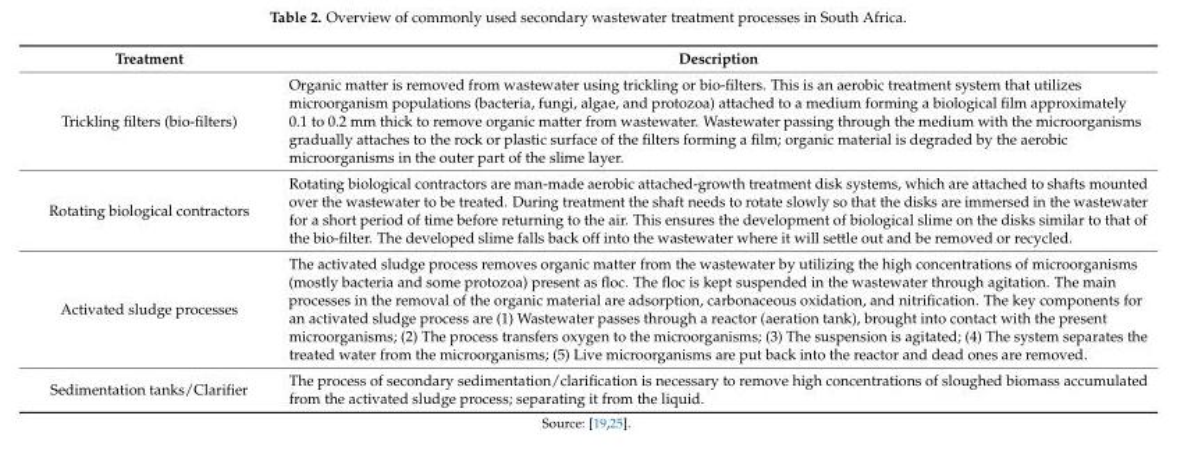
<table><thead><tr><td>Treatment</td><td>Description</td></tr></thead><tbody><tr><td>Trickling filters (bio-filters)</td><td>Organic matter is removed from wastewater using trickling or bio-filters. This is an aerobic treatment system that utilizes microorganism populations (bacteria, fungi, algae, and protozoa) attached to a medium forming a biological film approximately 0.1 to 0.2 mm thick to remove organic matter from wastewater. Wastewater passing through the medium with the microorganisms gradually attaches to the rock or plastic surface of the filters forming a film; organic material is degraded by the aerobic microorganisms in the outer part of the slime layer.</td></tr><tr><td>Rotating biological contractors</td><td>Rotating biological contractors are man-made aerobic attached-growth treatment disk systems, which are attached to shafts mounted over the wastewater to be treated. During treatment the shaft needs to rotate slowly so that the disks are immersed in the wastewater for a short period of time before returning to the air. This ensures the development of biological slime on the disks similar to that of the bio-filter. The developed slime falls back off into the wastewater where it will settle out and be removed or recycled.</td></tr><tr><td>Activated sludge processes</td><td>The activated sludge process removes organic matter from the wastewater by utilizing the high concentrations of microorganisms (mostly bacteria and some protozoa) present as floc. The floc is kept suspended in the wastewater through agitation. The main processes in the removal of the organic material are adsorption, carbonaceous oxidation, and nitrification. The key components for an activated sludge process are (1) Wastewater passes through a reactor (aeration tank), brought into contact with the present microorganisms; (2) The process transfers oxygen to the microorganisms; (3) The suspension is agitated; (4) The system separates the treated water from the microorganisms; (5) Live microorganisms are put back into the reactor and dead ones are removed.</td></tr><tr><td>Sedimentation tanks/Clarifier</td><td>The process of secondary sedimentation/clarification is necessary to remove high concentrations of sloughed biomass accumulated from the activated sludge process; separating it from the liquid.</td></tr></tbody></table>